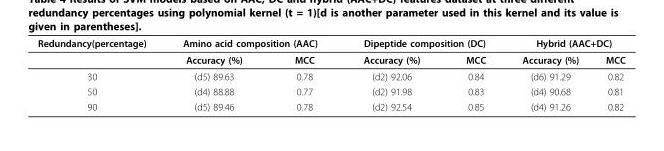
<table><thead><tr><td rowspan="2">Redundancy(percentage)</td><td colspan="2">Amino acid composition (AAC)</td><td colspan="2">Dipeptide composition (DC)</td><td colspan="2">Hybrid (AAC+DC)</td></tr><tr><td>Accuracy (%)</td><td>MCC</td><td>Accuracy (%)</td><td>MCC</td><td>Accuracy (%)</td><td>MCC</td></tr></thead><tbody><tr><td>30</td><td>(d5) 89.63</td><td>0.78</td><td>(d2) 92.06</td><td>0.84</td><td>(d6) 91.29</td><td>0.82</td></tr><tr><td>50</td><td>(d4) 88.88</td><td>0.77</td><td>(d2) 91.98</td><td>0.83</td><td>(d4) 90.68</td><td>0.81</td></tr><tr><td>90</td><td>(d5) 89.46</td><td>0.78</td><td>(d2) 92.54</td><td>0.85</td><td>(d4) 91.26</td><td>0.82</td></tr></tbody></table>